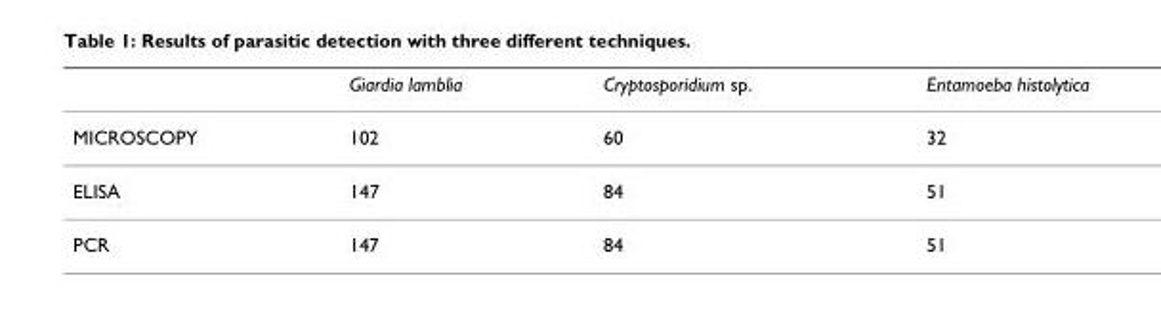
<table><thead><tr><td></td><td>Giardia lamblia</td><td>Cryptosporidium sp.</td><td>Entamoeba histolytica</td></tr></thead><tbody><tr><td>MICROSCOPY</td><td>102</td><td>60</td><td>32</td></tr><tr><td>ELISA</td><td>147</td><td>84</td><td>51</td></tr><tr><td>PCR</td><td>147</td><td>84</td><td>51</td></tr></tbody></table>